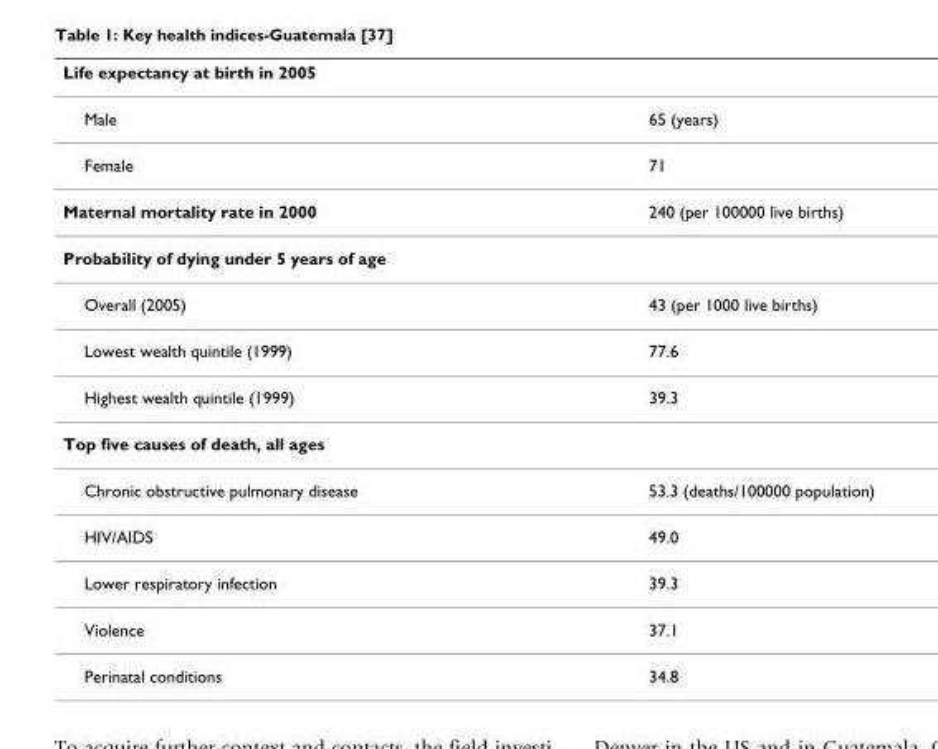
<table><thead><tr><td colspan="2">Life expectancy at birth in 2005</td></tr><tr><td>Male</td><td>65 (years)</td></tr></thead><tbody><tr><td>Female</td><td>71</td></tr><tr><td>Maternal mortality rate in 2000</td><td>240 (per 100000 live births)</td></tr><tr><td colspan="2">Probability of dying under 5 years of age</td></tr><tr><td>Overall (2005)</td><td>43 (per 1000 live births)</td></tr><tr><td>Lowest wealth quintile (1999)</td><td>77.6</td></tr><tr><td>Highest wealth quintile (1999)</td><td>39.3</td></tr><tr><td colspan="2">Top five causes of death, all ages</td></tr><tr><td>Chronic obstructive pulmonary disease</td><td>53.3 (deaths/100000 population)</td></tr><tr><td>HIV/AIDS</td><td>49.0</td></tr><tr><td>Lower respiratory infection</td><td>39.3</td></tr><tr><td>Violence</td><td>37.1</td></tr><tr><td>Perinatal conditions</td><td>34.8</td></tr></tbody></table>